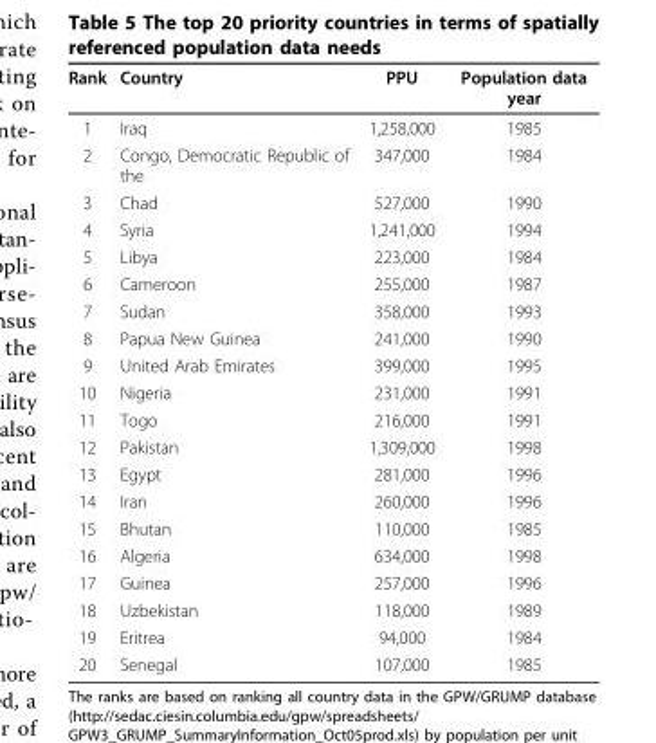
<table><thead><tr><td>Rank</td><td>Country</td><td>PPU</td><td>Population data year</td></tr></thead><tbody><tr><td>1</td><td>Iraq</td><td>1,258,000</td><td>1985</td></tr><tr><td>2</td><td>Congo, Democratic Republic of the</td><td>347,000</td><td>1984</td></tr><tr><td>3</td><td>Chad</td><td>527,000</td><td>1990</td></tr><tr><td>4</td><td>Syria</td><td>1,241,000</td><td>1994</td></tr><tr><td>5</td><td>Libya</td><td>223,000</td><td>1984</td></tr><tr><td>6</td><td>Cameroon</td><td>255,000</td><td>1987</td></tr><tr><td>7</td><td>Sudan</td><td>358,000</td><td>1993</td></tr><tr><td>8</td><td>Papua New Guinea</td><td>241,000</td><td>1990</td></tr><tr><td>9</td><td>United Arab Emirates</td><td>399,000</td><td>1995</td></tr><tr><td>10</td><td>Nigeria</td><td>231,000</td><td>1991</td></tr><tr><td>11</td><td>Togo</td><td>216,000</td><td>1991</td></tr><tr><td>12</td><td>Pakistan</td><td>1,309,000</td><td>1998</td></tr><tr><td>13</td><td>Egypt</td><td>281,000</td><td>1996</td></tr><tr><td>14</td><td>Iran</td><td>260,000</td><td>1996</td></tr><tr><td>15</td><td>Bhutan</td><td>110,000</td><td>1985</td></tr><tr><td>16</td><td>Algeria</td><td>634,000</td><td>1998</td></tr><tr><td>17</td><td>Guinea</td><td>257,000</td><td>1996</td></tr><tr><td>18</td><td>Uzbekistan</td><td>118,000</td><td>1989</td></tr><tr><td>19</td><td>Eritrea</td><td>94,000</td><td>1984</td></tr><tr><td>20</td><td>Senegal</td><td>107,000</td><td>1985</td></tr></tbody></table>